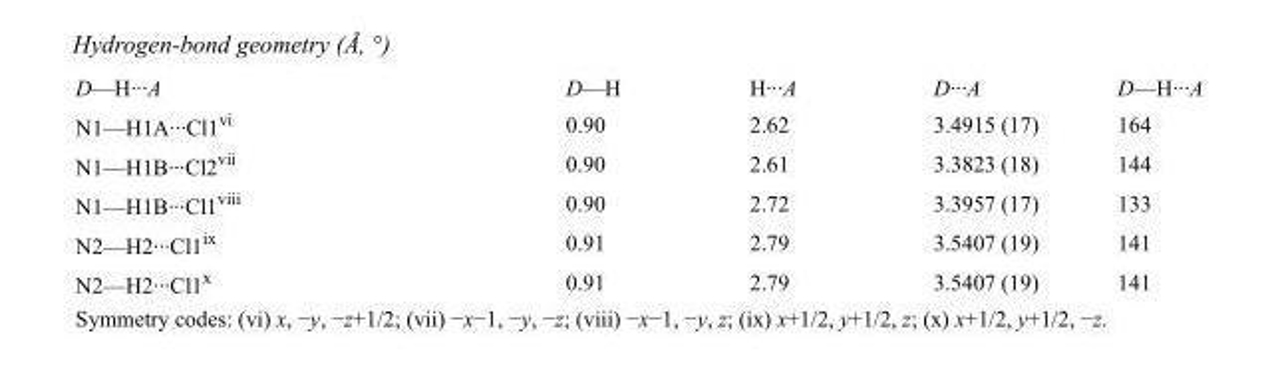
<table><tbody><tr><td>D—H···A</td><td>D—H</td><td>H···A</td><td>D···A</td><td>D—H···A</td></tr><tr><td>N1—H1A···Cl1<sup>vi</sup></td><td>0.90</td><td>2.62</td><td>3.4915 (17)</td><td>164</td></tr><tr><td>N1—H1B···Cl2<sup>vii</sup></td><td>0.90</td><td>2.61</td><td>3.3823 (18)</td><td>144</td></tr><tr><td>N1—H1B···Cl1<sup>viii</sup></td><td>0.90</td><td>2.72</td><td>3.3957 (17)</td><td>133</td></tr><tr><td>N2—H2···Cl1<sup>ix</sup></td><td>0.91</td><td>2.79</td><td>3.5407 (19)</td><td>141</td></tr><tr><td>N2—H2···Cl1<sup>x</sup></td><td>0.91</td><td>2.79</td><td>3.5407 (19)</td><td>141</td></tr></tbody></table>